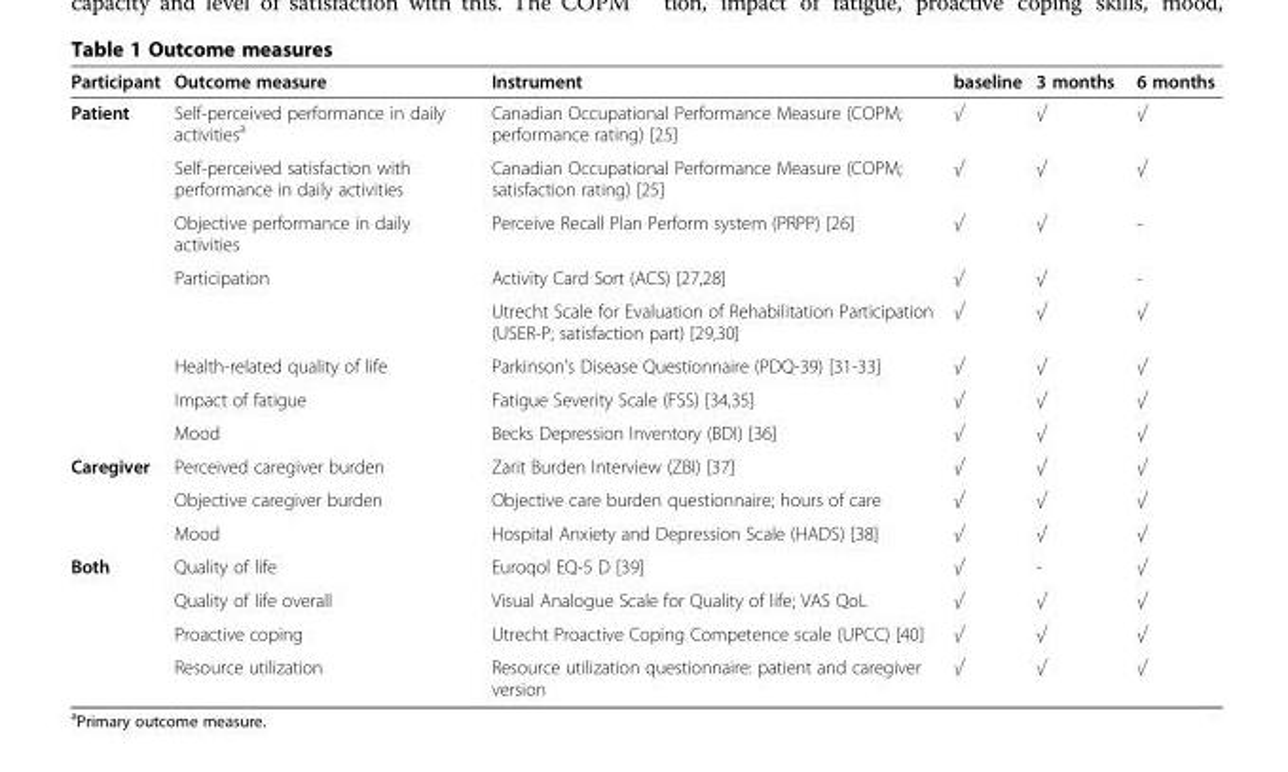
<table><thead><tr><td>Participant</td><td>Outcome measure</td><td>Instrument</td><td>baseline</td><td>3 months</td><td>6 months</td></tr></thead><tbody><tr><td rowspan="8">Patient</td><td>Self-perceived performance in daily activities<sup>a</sup></td><td>Canadian Occupational Performance Measure (COPM; performance rating) [25]</td><td>√</td><td>√</td><td>√</td></tr><tr><td>Self-perceived satisfaction with performance in daily activities</td><td>Canadian Occupational Performance Measure (COPM; satisfaction rating) [25]</td><td>√</td><td>√</td><td>√</td></tr><tr><td>Objective performance in daily activities</td><td>Perceive Recall Plan Perform system (PRPP) [26]</td><td>√</td><td>√</td><td>-</td></tr><tr><td>Participation</td><td>Activity Card Sort (ACS) [27,28]</td><td>√</td><td>√</td><td>-</td></tr><tr><td></td><td>Utrecht Scale for Evaluation of Rehabilitation Participation (USER-P; satisfaction part) [29,30]</td><td>√</td><td>√</td><td>√</td></tr><tr><td>Health-related quality of life</td><td>Parkinson’s Disease Questionnaire (PDQ-39) [31-33]</td><td>√</td><td>√</td><td>√</td></tr><tr><td>Impact of fatigue</td><td>Fatigue Severity Scale (FSS) [34,35]</td><td>√</td><td>√</td><td>√</td></tr><tr><td>Mood</td><td>Becks Depression Inventory (BDI) [36]</td><td>√</td><td>√</td><td>√</td></tr><tr><td rowspan="3">Caregiver</td><td>Perceived caregiver burden</td><td>Zarit Burden Interview (ZBI) [37]</td><td>√</td><td>√</td><td>√</td></tr><tr><td>Objective caregiver burden</td><td>Objective care burden questionnaire; hours of care</td><td>√</td><td>√</td><td>√</td></tr><tr><td>Mood</td><td>Hospital Anxiety and Depression Scale (HADS) [38]</td><td>√</td><td>√</td><td>√</td></tr><tr><td rowspan="4">Both</td><td>Quality of life</td><td>Euroqol EQ-5 D [39]</td><td>√</td><td>-</td><td>√</td></tr><tr><td>Quality of life overall</td><td>Visual Analogue Scale for Quality of life; VAS QoL</td><td>√</td><td>√</td><td>√</td></tr><tr><td>Proactive coping</td><td>Utrecht Proactive Coping Competence scale (UPCC) [40]</td><td>√</td><td>√</td><td>√</td></tr><tr><td>Resource utilization</td><td>Resource utilization questionnaire: patient and caregiver version</td><td>√</td><td>√</td><td>√</td></tr></tbody></table>